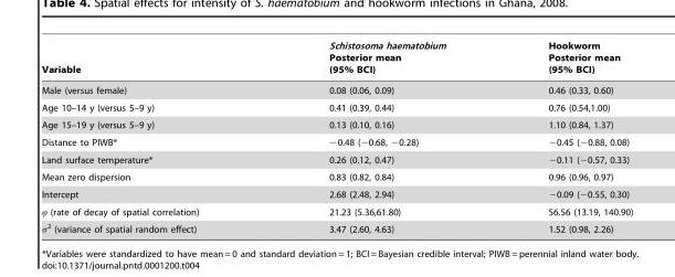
<table><thead><tr><td>Variable</td><td>Schistosoma haematobium Posterior mean (95% BCI)</td><td>Hookworm Posterior mean (95% BCI)</td></tr></thead><tbody><tr><td>Male (versus female)</td><td>0.08 (0.06, 0.09)</td><td>0.46 (0.33, 0.60)</td></tr><tr><td>Age 10–14 y (versus 5–9 y)</td><td>0.41 (0.39, 0.44)</td><td>0.76 (0.54,1.00)</td></tr><tr><td>Age 15–19 y (versus 5–9 y)</td><td>0.13 (0.10, 0.16)</td><td>1.10 (0.84, 1.37)</td></tr><tr><td>Distance to PIWB*</td><td>−0.48 (−0.68, −0.28)</td><td>−0.45 (−0.88, 0.08)</td></tr><tr><td>Land surface temperature*</td><td>0.26 (0.12, 0.47)</td><td>−0.11 (−0.57, 0.33)</td></tr><tr><td>Mean zero dispersion</td><td>0.83 (0.82, 0.84)</td><td>0.96 (0.96, 0.97)</td></tr><tr><td>Intercept</td><td>2.68 (2.48, 2.94)</td><td>−0.09 (−0.55, 0.30)</td></tr><tr><td>ϕ (rate of decay of spatial correlation)</td><td>21.23 (5.36,61.80)</td><td>56.56 (13.19, 140.90)</td></tr><tr><td>σ<sup>2</sup> (variance of spatial random effect)</td><td>3.47 (2.60, 4.63)</td><td>1.52 (0.98, 2.26)</td></tr></tbody></table>